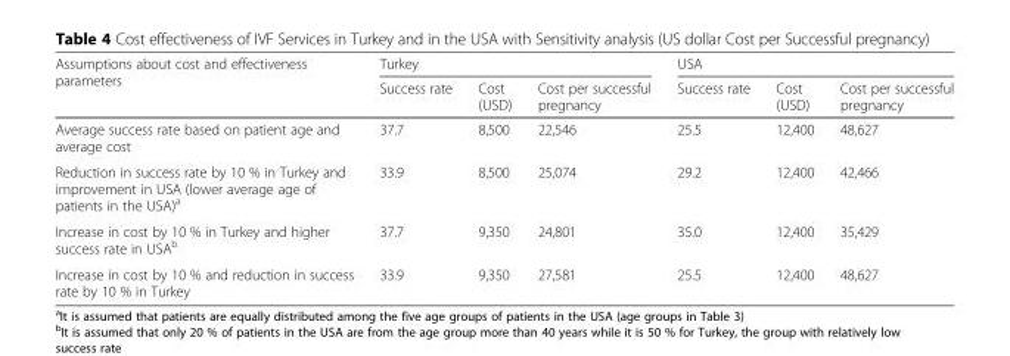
<table><thead><tr><td rowspan="2">Assumptions about cost and effectiveness parameters</td><td colspan="3">Turkey</td><td colspan="3">USA</td></tr><tr><td>Success rate</td><td>Cost (USD)</td><td>Cost per successful pregnancy</td><td>Success rate</td><td>Cost (USD)</td><td>Cost per successful pregnancy</td></tr></thead><tbody><tr><td>Average success rate based on patient age and average cost</td><td>37.7</td><td>8,500</td><td>22,546</td><td>25.5</td><td>12,400</td><td>48,627</td></tr><tr><td>Reduction in success rate by 10 % in Turkey and improvement in USA (lower average age of patients in the USA)<sup>a</sup></td><td>33.9</td><td>8,500</td><td>25,074</td><td>29.2</td><td>12,400</td><td>42,466</td></tr><tr><td>Increase in cost by 10 % in Turkey and higher success rate in USA<sup>b</sup></td><td>37.7</td><td>9,350</td><td>24,801</td><td>35.0</td><td>12,400</td><td>35,429</td></tr><tr><td>Increase in cost by 10 % and reduction in success rate by 10 % in Turkey</td><td>33.9</td><td>9,350</td><td>27,581</td><td>25.5</td><td>12,400</td><td>48,627</td></tr></tbody></table>